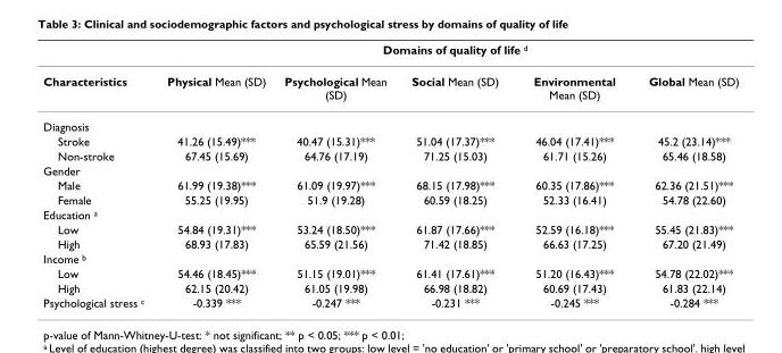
<table><thead><tr><td rowspan="2">Characteristics</td><td colspan="5">Domains of quality of life <sup>d</sup></td></tr><tr><td>Physical Mean (SD)</td><td>Psychological Mean (SD)</td><td>Social Mean (SD)</td><td>Environmental Mean (SD)</td><td>Global Mean (SD)</td></tr></thead><tbody><tr><td colspan="6">Diagnosis</td></tr><tr><td>Stroke</td><td>41.26 (15.49)***</td><td>40.47 (15.31)***</td><td>51.04 (17.37)***</td><td>46.04 (17.41)***</td><td>45.2 (23.14)***</td></tr><tr><td>Non-stroke</td><td>67.45 (15.69)</td><td>64.76 (17.19)</td><td>71.25 (15.03)</td><td>61.71 (15.26)</td><td>65.46 (18.58)</td></tr><tr><td colspan="6">Gender</td></tr><tr><td>Male</td><td>61.99 (19.38)***</td><td>61.09 (19.97)***</td><td>68.15 (17.98)***</td><td>60.35 (17.86)***</td><td>62.36 (21.51)***</td></tr><tr><td>Female</td><td>55.25 (19.95)</td><td>51.9 (19.28)</td><td>60.59 (18.25)</td><td>52.33 (16.41)</td><td>54.78 (22.60)</td></tr><tr><td colspan="6">Education <sup>a</sup></td></tr><tr><td>Low</td><td>54.84 (19.31)***</td><td>53.24 (18.50)***</td><td>61.87 (17.66)***</td><td>52.59 (16.18)***</td><td>55.45 (21.83)***</td></tr><tr><td>High</td><td>68.93 (17.83)</td><td>65.59 (21.56)</td><td>71.42 (18.85)</td><td>66.63 (17.25)</td><td>67.20 (21.49)</td></tr><tr><td colspan="6">Income <sup>b</sup></td></tr><tr><td>Low</td><td>54.46 (18.45)***</td><td>51.15 (19.01)***</td><td>61.41 (17.61)***</td><td>51.20 (16.43)***</td><td>54.78 (22.02)***</td></tr><tr><td>High</td><td>62.15 (20.42)</td><td>61.05 (19.98)</td><td>66.98 (18.82)</td><td>60.69 (17.43)</td><td>61.83 (22.14)</td></tr><tr><td>Psychological stress <sup>c</sup></td><td>-0.339 ***</td><td>-0.247 ***</td><td>-0.231 ***</td><td>-0.245 ***</td><td>-0.284 ***</td></tr></tbody></table>